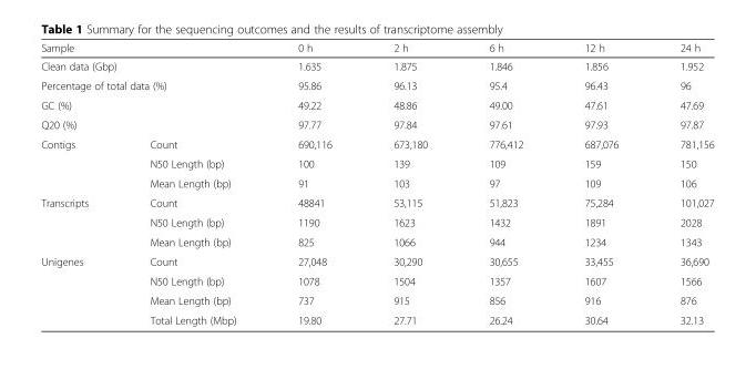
<table><thead><tr><td colspan="2">Sample</td><td>0 h</td><td>2 h</td><td>6 h</td><td>12 h</td><td>24 h</td></tr></thead><tbody><tr><td colspan="2">Clean data (Gbp)</td><td>1.635</td><td>1.875</td><td>1.846</td><td>1.856</td><td>1.952</td></tr><tr><td colspan="2">Percentage of total data (%)</td><td>95.86</td><td>96.13</td><td>95.4</td><td>96.43</td><td>96</td></tr><tr><td colspan="2">GC (%)</td><td>49.22</td><td>48.86</td><td>49.00</td><td>47.61</td><td>47.69</td></tr><tr><td colspan="2">Q20 (%)</td><td>97.77</td><td>97.84</td><td>97.61</td><td>97.93</td><td>97.87</td></tr><tr><td rowspan="3">Contigs</td><td>Count</td><td>690,116</td><td>673,180</td><td>776,412</td><td>687,076</td><td>781,156</td></tr><tr><td>N50 Length (bp)</td><td>100</td><td>139</td><td>109</td><td>159</td><td>150</td></tr><tr><td>Mean Length (bp)</td><td>91</td><td>103</td><td>97</td><td>109</td><td>106</td></tr><tr><td rowspan="3">Transcripts</td><td>Count</td><td>48841</td><td>53,115</td><td>51,823</td><td>75,284</td><td>101,027</td></tr><tr><td>N50 Length (bp)</td><td>1190</td><td>1623</td><td>1432</td><td>1891</td><td>2028</td></tr><tr><td>Mean Length (bp)</td><td>825</td><td>1066</td><td>944</td><td>1234</td><td>1343</td></tr><tr><td rowspan="4">Unigenes</td><td>Count</td><td>27,048</td><td>30,290</td><td>30,655</td><td>33,455</td><td>36,690</td></tr><tr><td>N50 Length (bp)</td><td>1078</td><td>1504</td><td>1357</td><td>1607</td><td>1566</td></tr><tr><td>Mean Length (bp)</td><td>737</td><td>915</td><td>856</td><td>916</td><td>876</td></tr><tr><td>Total Length (Mbp)</td><td>19.80</td><td>27.71</td><td>26.24</td><td>30.64</td><td>32.13</td></tr></tbody></table>